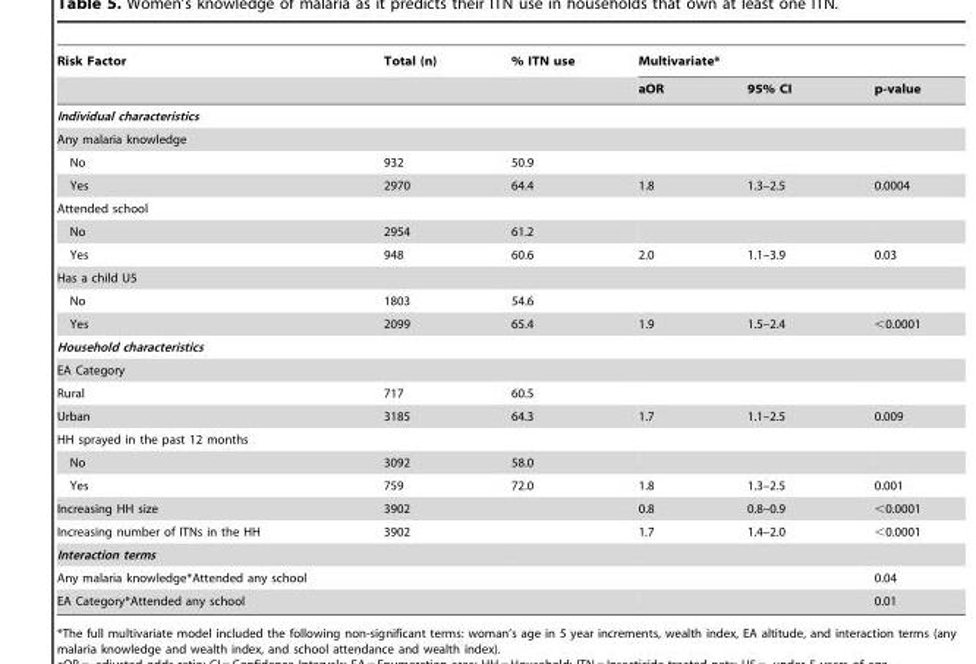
<table><thead><tr><td rowspan="2">Risk Factor</td><td rowspan="2">Total (n)</td><td rowspan="2">% ITN use</td><td colspan="3">Multivariate*</td></tr><tr><td>aOR</td><td>95% CI</td><td>p-value</td></tr></thead><tbody><tr><td colspan="6">Individual characteristics</td></tr><tr><td colspan="6">Any malaria knowledge</td></tr><tr><td>No</td><td>932</td><td>50.9</td><td></td><td></td><td></td></tr><tr><td>Yes</td><td>2970</td><td>64.4</td><td>1.8</td><td>1.3–2.5</td><td>0.0004</td></tr><tr><td colspan="6">Attended school</td></tr><tr><td>No</td><td>2954</td><td>61.2</td><td></td><td></td><td></td></tr><tr><td>Yes</td><td>948</td><td>60.6</td><td>2.0</td><td>1.1–3.9</td><td>0.03</td></tr><tr><td colspan="6">Has a child U5</td></tr><tr><td>No</td><td>1803</td><td>54.6</td><td></td><td></td><td></td></tr><tr><td>Yes</td><td>2099</td><td>65.4</td><td>1.9</td><td>1.5–2.4</td><td>&lt;0.0001</td></tr><tr><td colspan="6">Household characteristics</td></tr><tr><td colspan="6">EA Category</td></tr><tr><td>Rural</td><td>717</td><td>60.5</td><td></td><td></td><td></td></tr><tr><td>Urban</td><td>3185</td><td>64.3</td><td>1.7</td><td>1.1–2.5</td><td>0.009</td></tr><tr><td colspan="6">HH sprayed in the past 12 months</td></tr><tr><td>No</td><td>3092</td><td>58.0</td><td></td><td></td><td></td></tr><tr><td>Yes</td><td>759</td><td>72.0</td><td>1.8</td><td>1.3–2.5</td><td>0.001</td></tr><tr><td>Increasing HH size</td><td>3902</td><td></td><td>0.8</td><td>0.8–0.9</td><td>&lt;0.0001</td></tr><tr><td>Increasing number of ITNs in the HH</td><td>3902</td><td></td><td>1.7</td><td>1.4–2.0</td><td>&lt;0.0001</td></tr><tr><td colspan="6">Interaction terms</td></tr><tr><td>Any malaria knowledge*Attended any school</td><td></td><td></td><td></td><td></td><td>0.04</td></tr><tr><td>EA Category*Attended any school</td><td></td><td></td><td></td><td></td><td>0.01</td></tr></tbody></table>